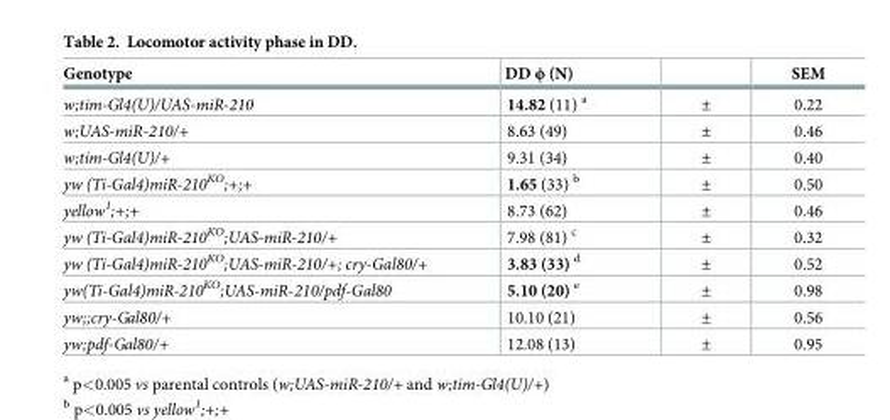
<table><thead><tr><td>Genotype</td><td>DD ϕ (N)</td><td></td><td>SEM</td></tr></thead><tbody><tr><td>w;tim-Gl4(U)/UAS-miR-210</td><td>14.82 (11) <sup>a</sup></td><td>±</td><td>0.22</td></tr><tr><td>w;UAS-miR-210/+</td><td>8.63 (49)</td><td>±</td><td>0.46</td></tr><tr><td>w;tim-Gl4(U)/+</td><td>9.31 (34)</td><td>±</td><td>0.40</td></tr><tr><td>yw (Ti-Gal4)miR-210<sup>KO</sup>;+;+</td><td>1.65 (33) <sup>b</sup></td><td>±</td><td>0.50</td></tr><tr><td>yellow<sup>1</sup>;+;+</td><td>8.73 (62)</td><td>±</td><td>0.46</td></tr><tr><td>yw (Ti-Gal4)miR-210<sup>KO</sup>;UAS-miR-210/+</td><td>7.98 (81) <sup>c</sup></td><td>±</td><td>0.32</td></tr><tr><td>yw (Ti-Gal4)miR-210<sup>KO</sup>;UAS-miR-210/+; cry-Gal80/+</td><td>3.83 (33) <sup>d</sup></td><td>±</td><td>0.52</td></tr><tr><td>yw(Ti-Gal4)miR-210<sup>KO</sup>;UAS-miR-210/pdf-Gal80</td><td>5.10 (20) <sup>e</sup></td><td>±</td><td>0.98</td></tr><tr><td>yw;;cry-Gal80/+</td><td>10.10 (21)</td><td>±</td><td>0.56</td></tr><tr><td>yw;pdf-Gal80/+</td><td>12.08 (13)</td><td>±</td><td>0.95</td></tr></tbody></table>